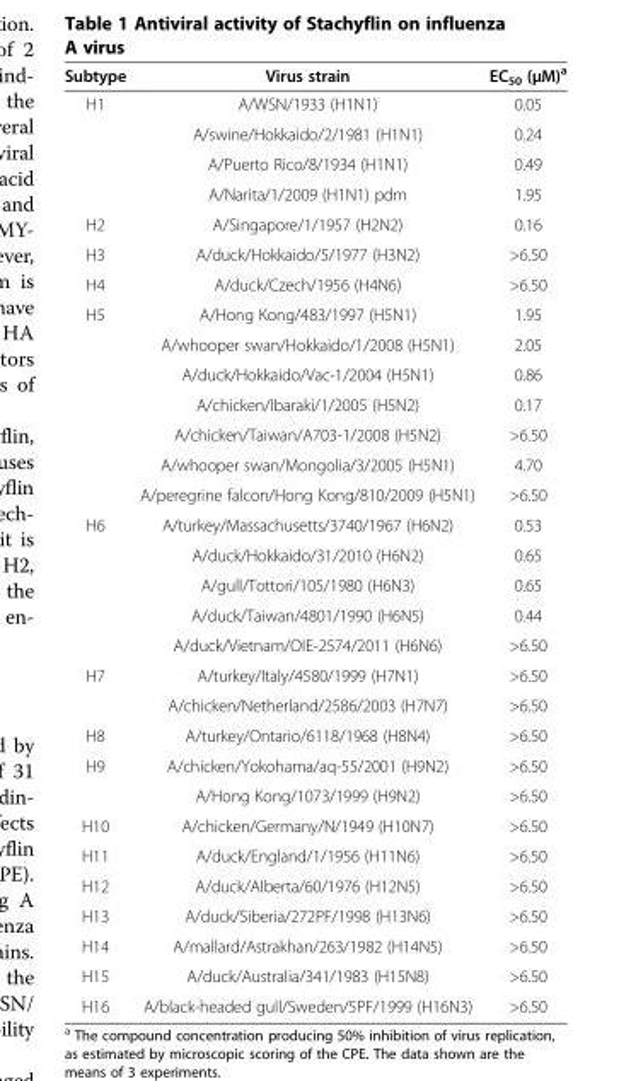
<table><thead><tr><td>Subtype</td><td>Virus strain</td><td>EC<sub>50</sub> (μM)<sup>a</sup></td></tr></thead><tbody><tr><td rowspan="4">H1</td><td>A/WSN/1933 (H1N1)</td><td>0.05</td></tr><tr><td>A/swine/Hokkaido/2/1981 (H1N1)</td><td>0.24</td></tr><tr><td>A/Puerto Rico/8/1934 (H1N1)</td><td>0.49</td></tr><tr><td>A/Narita/1/2009 (H1N1) pdm</td><td>1.95</td></tr><tr><td>H2</td><td>A/Singapore/1/1957 (H2N2)</td><td>0.16</td></tr><tr><td>H3</td><td>A/duck/Hokkaido/5/1977 (H3N2)</td><td>&gt;6.50</td></tr><tr><td>H4</td><td>A/duck/Czech/1956 (H4N6)</td><td>&gt;6.50</td></tr><tr><td rowspan="7">H5</td><td>A/Hong Kong/483/1997 (H5N1)</td><td>1.95</td></tr><tr><td>A/whooper swan/Hokkaido/1/2008 (H5N1)</td><td>2.05</td></tr><tr><td>A/duck/Hokkaido/Vac-1/2004 (H5N1)</td><td>0.86</td></tr><tr><td>A/chicken/Ibaraki/1/2005 (H5N2)</td><td>0.17</td></tr><tr><td>A/chicken/Taiwan/A703-1/2008 (H5N2)</td><td>&gt;6.50</td></tr><tr><td>A/whooper swan/Mongolia/3/2005 (H5N1)</td><td>4.70</td></tr><tr><td>A/peregrine falcon/Hong Kong/810/2009 (H5N1)</td><td>&gt;6.50</td></tr><tr><td rowspan="5">H6</td><td>A/turkey/Massachusetts/3740/1967 (H6N2)</td><td>0.53</td></tr><tr><td>A/duck/Hokkaido/31/2010 (H6N2)</td><td>0.65</td></tr><tr><td>A/gull/Tottori/105/1980 (H6N3)</td><td>0.65</td></tr><tr><td>A/duck/Taiwan/4801/1990 (H6N5)</td><td>0.44</td></tr><tr><td>A/duck/Vietnam/OIE-2574/2011 (H6N6)</td><td>&gt;6.50</td></tr><tr><td rowspan="2">H7</td><td>A/turkey/Italy/4580/1999 (H7N1)</td><td>&gt;6.50</td></tr><tr><td>A/chicken/Netherland/2586/2003 (H7N7)</td><td>&gt;6.50</td></tr><tr><td>H8</td><td>A/turkey/Ontario/6118/1968 (H8N4)</td><td>&gt;6.50</td></tr><tr><td rowspan="2">H9</td><td>A/chicken/Yokohama/aq-55/2001 (H9N2)</td><td>&gt;6.50</td></tr><tr><td>A/Hong Kong/1073/1999 (H9N2)</td><td>&gt;6.50</td></tr><tr><td>H10</td><td>A/chicken/Germany/N/1949 (H10N7)</td><td>&gt;6.50</td></tr><tr><td>H11</td><td>A/duck/England/1/1956 (H11N6)</td><td>&gt;6.50</td></tr><tr><td>H12</td><td>A/duck/Alberta/60/1976 (H12N5)</td><td>&gt;6.50</td></tr><tr><td>H13</td><td>A/duck/Siberia/272PF/1998 (H13N6)</td><td>&gt;6.50</td></tr><tr><td>H14</td><td>A/mallard/Astrakhan/263/1982 (H14N5)</td><td>&gt;6.50</td></tr><tr><td>H15</td><td>A/duck/Australia/341/1983 (H15N8)</td><td>&gt;6.50</td></tr><tr><td>H16</td><td>A/black-headed gull/Sweden/5PF/1999 (H16N3)</td><td>&gt;6.50</td></tr></tbody></table>